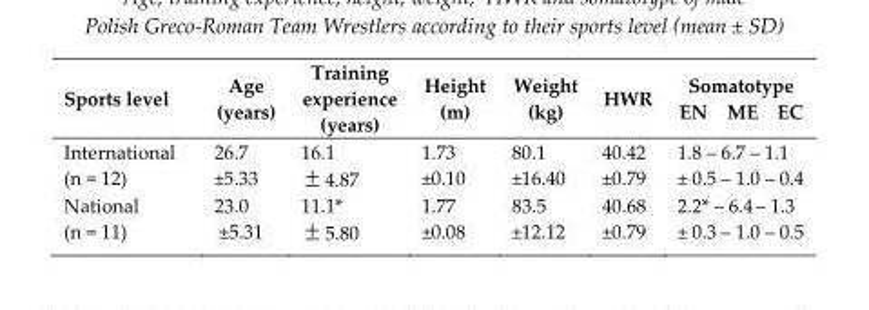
<table><thead><tr><td rowspan="2">Sports level</td><td rowspan="2">Age (years)</td><td rowspan="2">Training experience (years)</td><td rowspan="2">Height (m)</td><td rowspan="2">Weight (kg)</td><td rowspan="2">HWR</td><td colspan="3">Somatotype</td></tr><tr><td>EN</td><td>ME</td><td>EC</td></tr></thead><tbody><tr><td>International (n = 12)</td><td>26.7 ±5.33</td><td>16.1 ± 4.87</td><td>1.73 ±0.10</td><td>80.1 ±16.40</td><td>40.42 ±0.79</td><td colspan="3">1.8 – 6.7 – 1.1 ± 0.5 – 1.0 – 0.4</td></tr><tr><td>National (n = 11)</td><td>23.0 ±5.31</td><td>11.1* ± 5.80</td><td>1.77 ±0.08</td><td>83.5 ±12.12</td><td>40.68 ±0.79</td><td colspan="3">2.2* – 6.4 – 1.3 ± 0.3 – 1.0 – 0.5</td></tr></tbody></table>